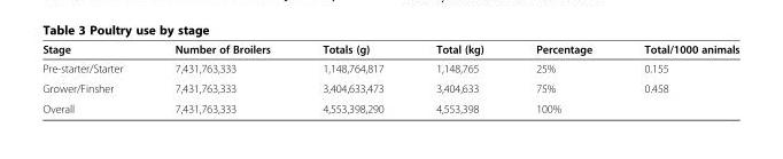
<table><thead><tr><td>Stage</td><td>Number of Broilers</td><td>Totals (g)</td><td>Total (kg)</td><td>Percentage</td><td>Total/1000 animals</td></tr></thead><tbody><tr><td>Pre-starter/Starter</td><td>7,431,763,333</td><td>1,148,764,817</td><td>1,148,765</td><td>25%</td><td>0.155</td></tr><tr><td>Grower/Finsher</td><td>7,431,763,333</td><td>3,404,633,473</td><td>3,404,633</td><td>75%</td><td>0.458</td></tr><tr><td>Overall</td><td>7,431,763,333</td><td>4,553,398,290</td><td>4,553,398</td><td>100%</td><td></td></tr></tbody></table>